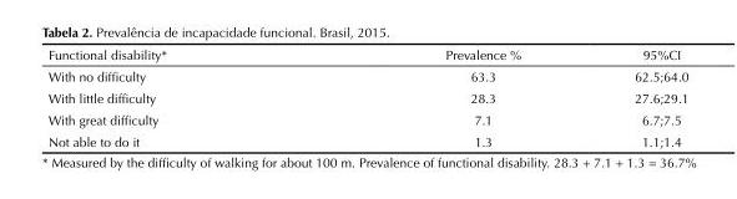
<table><thead><tr><td>Functional disability*</td><td>Prevalence %</td><td>95%CI</td></tr></thead><tbody><tr><td>With no difficulty</td><td>63.3</td><td>62.5;64.0</td></tr><tr><td>With little difficulty</td><td>28.3</td><td>27.6;29.1</td></tr><tr><td>With great difficulty</td><td>7.1</td><td>6.7;7.5</td></tr><tr><td>Not able to do it</td><td>1.3</td><td>1.1;1.4</td></tr></tbody></table>